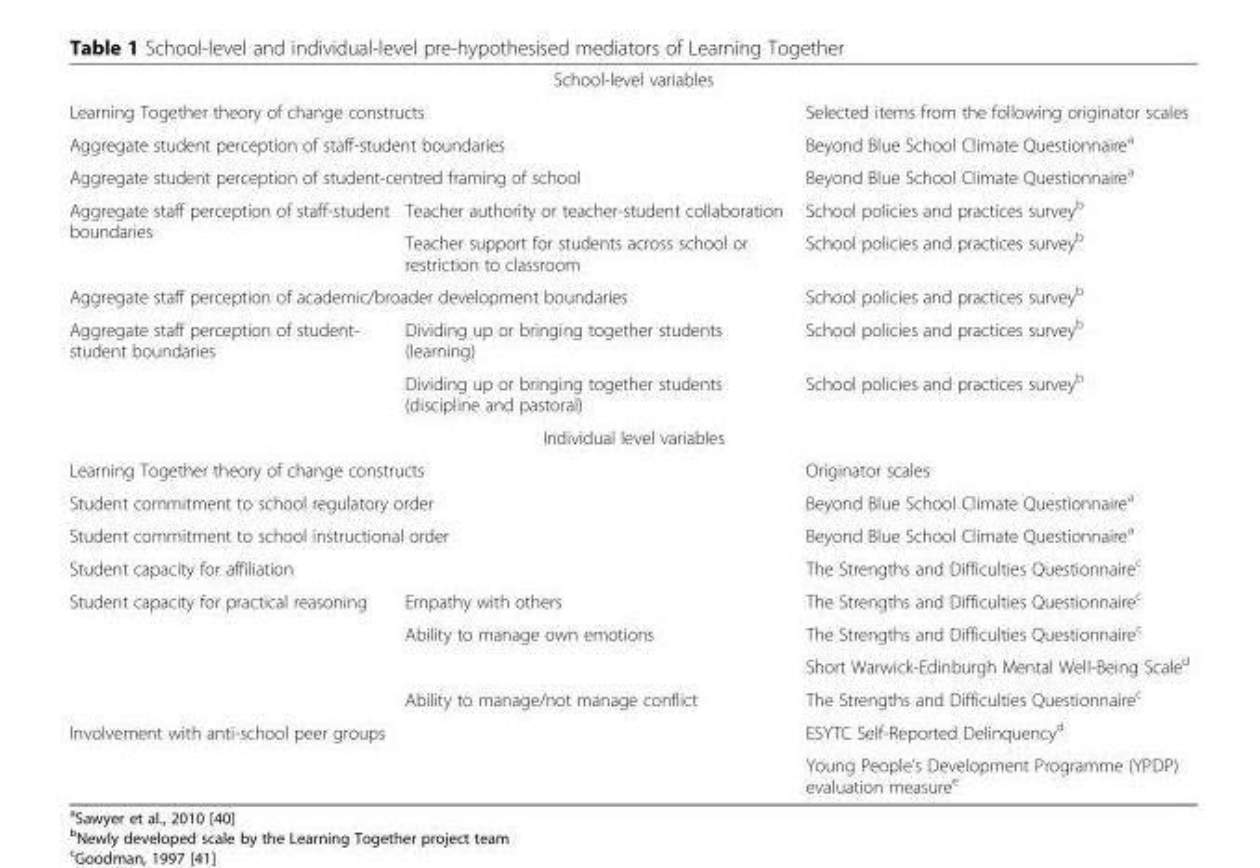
<table><tbody><tr><td colspan="3">School-level variables</td></tr><tr><td colspan="2">Learning Together theory of change constructs</td><td>Selected items from the following originator scales</td></tr><tr><td colspan="2">Aggregate student perception of staff-student boundaries</td><td>Beyond Blue School Climate Questionnaire<sup>a</sup></td></tr><tr><td colspan="2">Aggregate student perception of student-centred framing of school</td><td>Beyond Blue School Climate Questionnaire<sup>a</sup></td></tr><tr><td rowspan="2">Aggregate staff perception of staff-student boundaries</td><td>Teacher authority or teacher-student collaboration</td><td>School policies and practices survey<sup>b</sup></td></tr><tr><td>Teacher support for students across school or restriction to classroom</td><td>School policies and practices survey<sup>b</sup></td></tr><tr><td colspan="2">Aggregate staff perception of academic/broader development boundaries</td><td>School policies and practices survey<sup>b</sup></td></tr><tr><td rowspan="2">Aggregate staff perception of student- student boundaries</td><td>Dividing up or bringing together students (learning)</td><td>School policies and practices survey<sup>b</sup></td></tr><tr><td>Dividing up or bringing together students (discipline and pastoral)</td><td>School policies and practices survey<sup>b</sup></td></tr><tr><td colspan="3">Individual level variables</td></tr><tr><td colspan="2">Learning Together theory of change constructs</td><td>Originator scales</td></tr><tr><td colspan="2">Student commitment to school regulatory order</td><td>Beyond Blue School Climate Questionnaire<sup>a</sup></td></tr><tr><td colspan="2">Student commitment to school instructional order</td><td>Beyond Blue School Climate Questionnaire<sup>a</sup></td></tr><tr><td colspan="2">Student capacity for affiliation</td><td>The Strengths and Difficulties Questionnaire<sup>c</sup></td></tr><tr><td rowspan="4">Student capacity for practical reasoning</td><td>Empathy with others</td><td>The Strengths and Difficulties Questionnaire<sup>c</sup></td></tr><tr><td rowspan="2">Ability to manage own emotions</td><td>The Strengths and Difficulties Questionnaire<sup>c</sup></td></tr><tr><td>Short Warwick-Edinburgh Mental Well-Being Scale<sup>d</sup></td></tr><tr><td>Ability to manage/not manage conflict</td><td>The Strengths and Difficulties Questionnaire<sup>c</sup></td></tr><tr><td rowspan="2" colspan="2">Involvement with anti-school peer groups</td><td>ESYTC Self-Reported Delinquency<sup>d</sup></td></tr><tr><td>Young People’s Development Programme (YPDP) evaluation measure<sup>e</sup></td></tr></tbody></table>